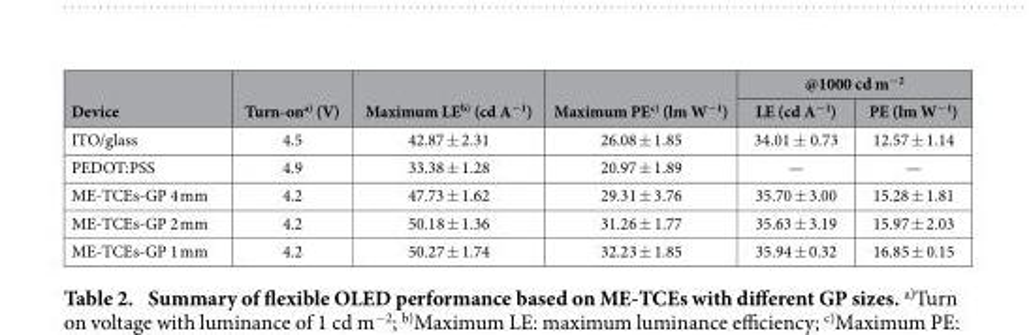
<table><thead><tr><td rowspan="2">Device</td><td rowspan="2">Turn-on<sup>a)</sup> (V)</td><td rowspan="2">Maximum LE<sup>b)</sup> (cd A<sup>−1</sup>)</td><td rowspan="2">Maximum PE<sup>c)</sup> (lm W<sup>−1</sup>)</td><td colspan="2">@1000 cd m<sup>−2</sup></td></tr><tr><td>LE (cd A<sup>−1</sup>)</td><td>PE (lm W<sup>−1</sup>)</td></tr></thead><tbody><tr><td>ITO/glass</td><td>4.5</td><td>42.87 ± 2.31</td><td>26.08 ± 1.85</td><td>34.01 ± 0.73</td><td>12.57 ± 1.14</td></tr><tr><td>PEDOT:PSS</td><td>4.9</td><td>33.38 ± 1.28</td><td>20.97 ± 1.89</td><td>—</td><td>—</td></tr><tr><td>ME-TCEs-GP 4 mm</td><td>4.2</td><td>47.73 ± 1.62</td><td>29.31 ± 3.76</td><td>35.70 ± 3.00</td><td>15.28 ± 1.81</td></tr><tr><td>ME-TCEs-GP 2 mm</td><td>4.2</td><td>50.18 ± 1.36</td><td>31.26 ± 1.77</td><td>35.63 ± 3.19</td><td>15.97 ± 2.03</td></tr><tr><td>ME-TCEs-GP 1 mm</td><td>4.2</td><td>50.27 ± 1.74</td><td>32.23 ± 1.85</td><td>35.94 ± 0.32</td><td>16.85 ± 0.15</td></tr></tbody></table>